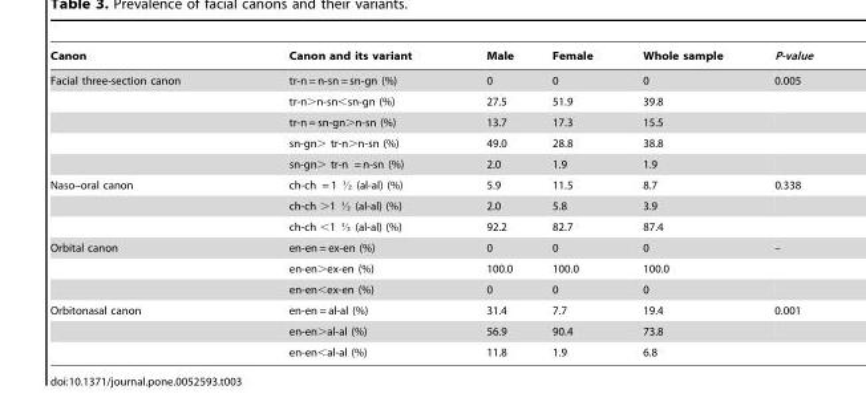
<table><thead><tr><td>Canon</td><td>Canon and its variant</td><td>Male</td><td>Female</td><td>Whole sample</td><td>P-value</td></tr></thead><tbody><tr><td rowspan="5">Facial three-section canon</td><td>tr-n = n-sn = sn-gn (%)</td><td>0</td><td>0</td><td>0</td><td>0.005</td></tr><tr><td>tr-n&gt;n-sn&lt;sn-gn (%)</td><td>27.5</td><td>51.9</td><td>39.8</td><td></td></tr><tr><td>tr-n = sn-gn&gt;n-sn (%)</td><td>13.7</td><td>17.3</td><td>15.5</td><td></td></tr><tr><td>sn-gn&gt; tr-n&gt;n-sn (%)</td><td>49.0</td><td>28.8</td><td>38.8</td><td></td></tr><tr><td>sn-gn&gt; tr-n = n-sn (%)</td><td>2.0</td><td>1.9</td><td>1.9</td><td></td></tr><tr><td rowspan="3">Naso–oral canon</td><td>ch-ch = 1 K (al-al) (%)</td><td>5.9</td><td>11.5</td><td>8.7</td><td>0.338</td></tr><tr><td>ch-ch .1 K (al-al) (%)</td><td>2.0</td><td>5.8</td><td>3.9</td><td></td></tr><tr><td>ch-ch ,1 K (al-al) (%)</td><td>92.2</td><td>82.7</td><td>87.4</td><td></td></tr><tr><td rowspan="3">Orbital canon</td><td>en-en = ex-en (%)</td><td>0</td><td>0</td><td>0</td><td>–</td></tr><tr><td>en-en&gt;ex-en (%)</td><td>100.0</td><td>100.0</td><td>100.0</td><td></td></tr><tr><td>en-en&lt;ex-en (%)</td><td>0</td><td>0</td><td>0</td><td></td></tr><tr><td rowspan="3">Orbitonasal canon</td><td>en-en = al-al (%)</td><td>31.4</td><td>7.7</td><td>19.4</td><td>0.001</td></tr><tr><td>en-en&gt;al-al (%)</td><td>56.9</td><td>90.4</td><td>73.8</td><td></td></tr><tr><td>en-en&lt;al-al (%)</td><td>11.8</td><td>1.9</td><td>6.8</td><td></td></tr></tbody></table>